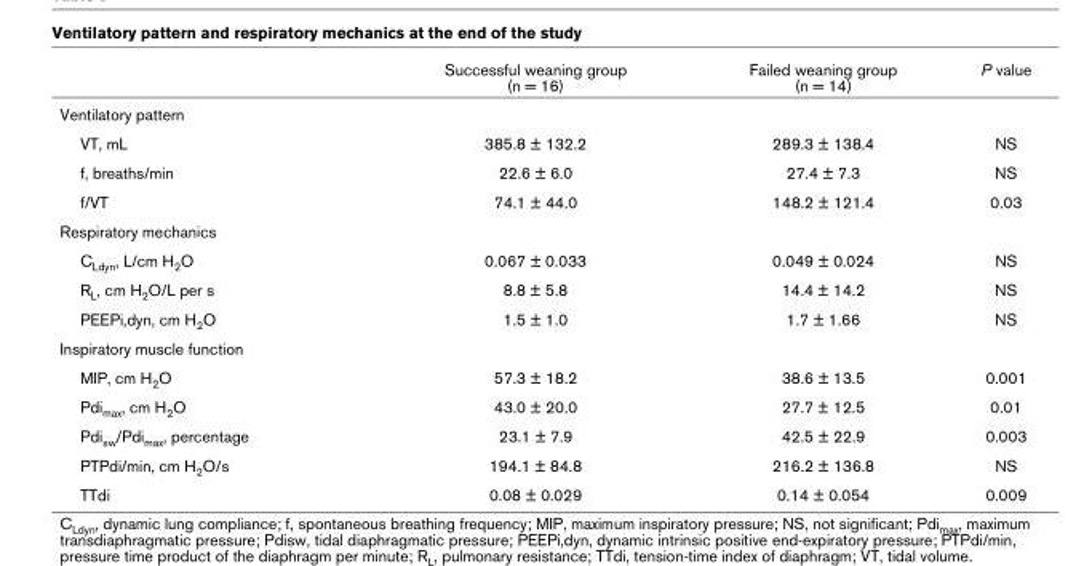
<table><thead><tr><td></td><td>Successful weaning group (n = 16)</td><td>Failed weaning group (n = 14)</td><td>P value</td></tr></thead><tbody><tr><td colspan="4">Ventilatory pattern</td></tr><tr><td>VT, mL</td><td>385.8 ± 132.2</td><td>289.3 ± 138.4</td><td>NS</td></tr><tr><td>f, breaths/min</td><td>22.6 ± 6.0</td><td>27.4 ± 7.3</td><td>NS</td></tr><tr><td>f/VT</td><td>74.1 ± 44.0</td><td>148.2 ± 121.4</td><td>0.03</td></tr><tr><td colspan="4">Respiratory mechanics</td></tr><tr><td>C<sub>Ldyn</sub>, L/cm H<sub>2</sub>O</td><td>0.067 ± 0.033</td><td>0.049 ± 0.024</td><td>NS</td></tr><tr><td>R<sub>L</sub>, cm H<sub>2</sub>O/L per s</td><td>8.8 ± 5.8</td><td>14.4 ± 14.2</td><td>NS</td></tr><tr><td>PEEPi,dyn, cm H<sub>2</sub>O</td><td>1.5 ± 1.0</td><td>1.7 ± 1.66</td><td>NS</td></tr><tr><td colspan="4">Inspiratory muscle function</td></tr><tr><td>MIP, cm H<sub>2</sub>O</td><td>57.3 ± 18.2</td><td>38.6 ± 13.5</td><td>0.001</td></tr><tr><td>Pdi<sub>max</sub>, cm H<sub>2</sub>O</td><td>43.0 ± 20.0</td><td>27.7 ± 12.5</td><td>0.01</td></tr><tr><td>Pdi<sub>sw</sub>/Pdi<sub>max</sub>, percentage</td><td>23.1 ± 7.9</td><td>42.5 ± 22.9</td><td>0.003</td></tr><tr><td>PTPdi/min, cm H<sub>2</sub>O/s</td><td>194.1 ± 84.8</td><td>216.2 ± 136.8</td><td>NS</td></tr><tr><td>TTdi</td><td>0.08 ± 0.029</td><td>0.14 ± 0.054</td><td>0.009</td></tr></tbody></table>